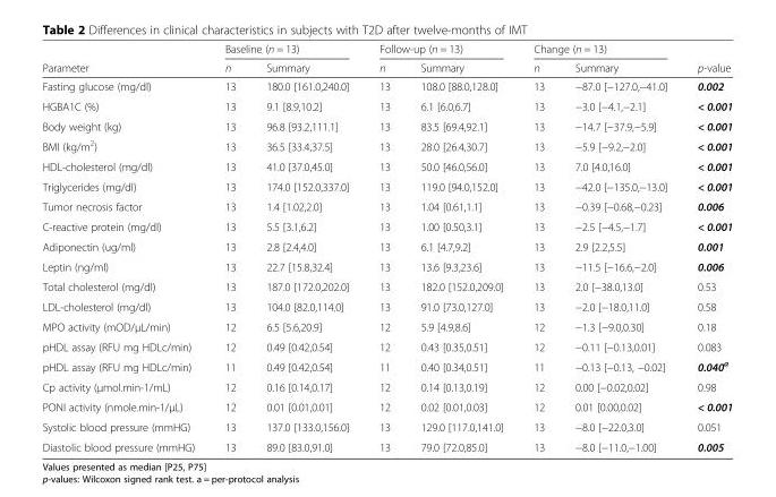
<table><thead><tr><td rowspan="2">Parameter</td><td colspan="2">Baseline (n = 13)</td><td colspan="2">Follow-up (n = 13)</td><td colspan="2">Change (n = 13)</td><td rowspan="2">p-value</td></tr><tr><td>n</td><td>Summary</td><td>n</td><td>Summary</td><td>n</td><td>Summary</td></tr></thead><tbody><tr><td>Fasting glucose (mg/dl)</td><td>13</td><td>180.0 [161.0,240.0]</td><td>13</td><td>108.0 [88.0,128.0]</td><td>13</td><td>−87.0 [−127.0,−41.0]</td><td>0.002</td></tr><tr><td>HGBA1C (%)</td><td>13</td><td>9.1 [8.9,10.2]</td><td>13</td><td>6.1 [6.0,6.7]</td><td>13</td><td>−3.0 [−4.1,−2.1]</td><td>&lt; 0.001</td></tr><tr><td>Body weight (kg)</td><td>13</td><td>96.8 [93.2,111.1]</td><td>13</td><td>83.5 [69.4,92.1]</td><td>13</td><td>−14.7 [−37.9,−5.9]</td><td>&lt; 0.001</td></tr><tr><td>BMI (kg/m<sup>2</sup>)</td><td>13</td><td>36.5 [33.4,37.5]</td><td>13</td><td>28.0 [26.4,30.7]</td><td>13</td><td>−5.9 [−9.2,−2.0]</td><td>&lt; 0.001</td></tr><tr><td>HDL-cholesterol (mg/dl)</td><td>13</td><td>41.0 [37.0,45.0]</td><td>13</td><td>50.0 [46.0,56.0]</td><td>13</td><td>7.0 [4.0,16.0]</td><td>&lt; 0.001</td></tr><tr><td>Triglycerides (mg/dl)</td><td>13</td><td>174.0 [152.0,337.0]</td><td>13</td><td>119.0 [94.0,152.0]</td><td>13</td><td>−42.0 [−135.0,−13.0]</td><td>&lt; 0.001</td></tr><tr><td>Tumor necrosis factor</td><td>13</td><td>1.4 [1.02,2.0]</td><td>13</td><td>1.04 [0.61,1.1]</td><td>13</td><td>−0.39 [−0.68,−0.23]</td><td>0.006</td></tr><tr><td>C-reactive protein (mg/dl)</td><td>13</td><td>5.5 [3.1,6.2]</td><td>13</td><td>1.00 [0.50,3.1]</td><td>13</td><td>−2.5 [−4.5,−1.7]</td><td>&lt; 0.001</td></tr><tr><td>Adiponectin (ug/ml)</td><td>13</td><td>2.8 [2.4,4.0]</td><td>13</td><td>6.1 [4.7,9.2]</td><td>13</td><td>2.9 [2.2,5.5]</td><td>0.001</td></tr><tr><td>Leptin (ng/ml)</td><td>13</td><td>22.7 [15.8,32.4]</td><td>13</td><td>13.6 [9.3,23.6]</td><td>13</td><td>−11.5 [−16.6,−2.0]</td><td>0.006</td></tr><tr><td>Total cholesterol (mg/dl)</td><td>13</td><td>187.0 [172.0,202.0]</td><td>13</td><td>182.0 [152.0,209.0]</td><td>13</td><td>2.0 [−38.0,13.0]</td><td>0.53</td></tr><tr><td>LDL-cholesterol (mg/dl)</td><td>13</td><td>104.0 [82.0,114.0]</td><td>13</td><td>91.0 [73.0,127.0]</td><td>13</td><td>−2.0 [−18.0,11.0]</td><td>0.58</td></tr><tr><td>MPO activity (mOD/μL/min)</td><td>12</td><td>6.5 [5.6,20.9]</td><td>12</td><td>5.9 [4.9,8.6]</td><td>12</td><td>−1.3 [−9.0,0.30]</td><td>0.18</td></tr><tr><td>pHDL assay (RFU mg HDLc/min)</td><td>12</td><td>0.49 [0.42,0.54]</td><td>12</td><td>0.43 [0.35,0.51]</td><td>12</td><td>−0.11 [−0.13,0.01]</td><td>0.083</td></tr><tr><td>pHDL assay (RFU mg HDLc/min)</td><td>11</td><td>0.49 [0.42,0.54]</td><td>11</td><td>0.40 [0.34,0.51]</td><td>11</td><td>−0.13 [−0.13, −0.02]</td><td>0.040<sup>a</sup></td></tr><tr><td>Cp activity (μmol.min-1/mL)</td><td>12</td><td>0.16 [0.14,0.17]</td><td>12</td><td>0.14 [0.13,0.19]</td><td>12</td><td>0.00 [−0.02,0.02]</td><td>0.98</td></tr><tr><td>PONI activity (nmole.min-1/μL)</td><td>12</td><td>0.01 [0.01,0.01]</td><td>12</td><td>0.02 [0.01,0.03]</td><td>12</td><td>0.01 [0.00,0.02]</td><td>&lt; 0.001</td></tr><tr><td>Systolic blood pressure (mmHG)</td><td>13</td><td>137.0 [133.0,156.0]</td><td>13</td><td>129.0 [117.0,141.0]</td><td>13</td><td>−8.0 [−22.0,3.0]</td><td>0.051</td></tr><tr><td>Diastolic blood pressure (mmHG)</td><td>13</td><td>89.0 [83.0,91.0]</td><td>13</td><td>79.0 [72.0,85.0]</td><td>13</td><td>−8.0 [−11.0,−1.00]</td><td>0.005</td></tr></tbody></table>